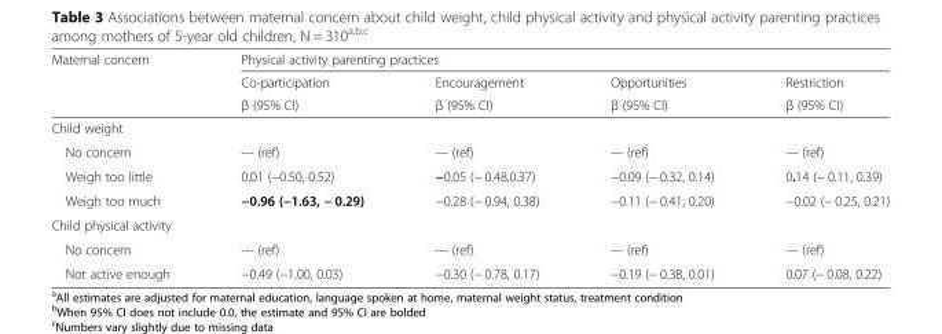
<table><thead><tr><td rowspan="3">Maternal concern</td><td colspan="4">Physical activity parenting practices</td></tr><tr><td rowspan="2">Co-participation β (95% CI)</td><td rowspan="2">Encouragement β (95% CI)</td><td rowspan="2">Opportunities β (95% CI)</td><td rowspan="2">Restriction β (95% CI)</td></tr><tr></tr></thead><tbody><tr><td colspan="5">Child weight</td></tr><tr><td>No concern</td><td>--- (ref)</td><td>--- (ref)</td><td>--- (ref)</td><td>--- (ref)</td></tr><tr><td>Weigh too little</td><td>0.01 (−0.50, 0.52)</td><td>−0.05 (− 0.48,0.37)</td><td>−0.09 (− 0.32, 0.14)</td><td>0.14 (− 0.11, 0.39)</td></tr><tr><td>Weigh too much</td><td>−0.96 (−1.63, − 0.29)</td><td>−0.28 (− 0.94, 0.38)</td><td>−0.11 (− 0.41, 0.20)</td><td>−0.02 (− 0.25, 0.21)</td></tr><tr><td colspan="5">Child physical activity</td></tr><tr><td>No concern</td><td>--- (ref)</td><td>--- (ref)</td><td>--- (ref)</td><td>--- (ref)</td></tr><tr><td>Not active enough</td><td>−0.49 (−1.00, 0.03)</td><td>−0.30 (− 0.78, 0.17)</td><td>−0.19 (− 0.38, 0.01)</td><td>0.07 (− 0.08, 0.22)</td></tr></tbody></table>